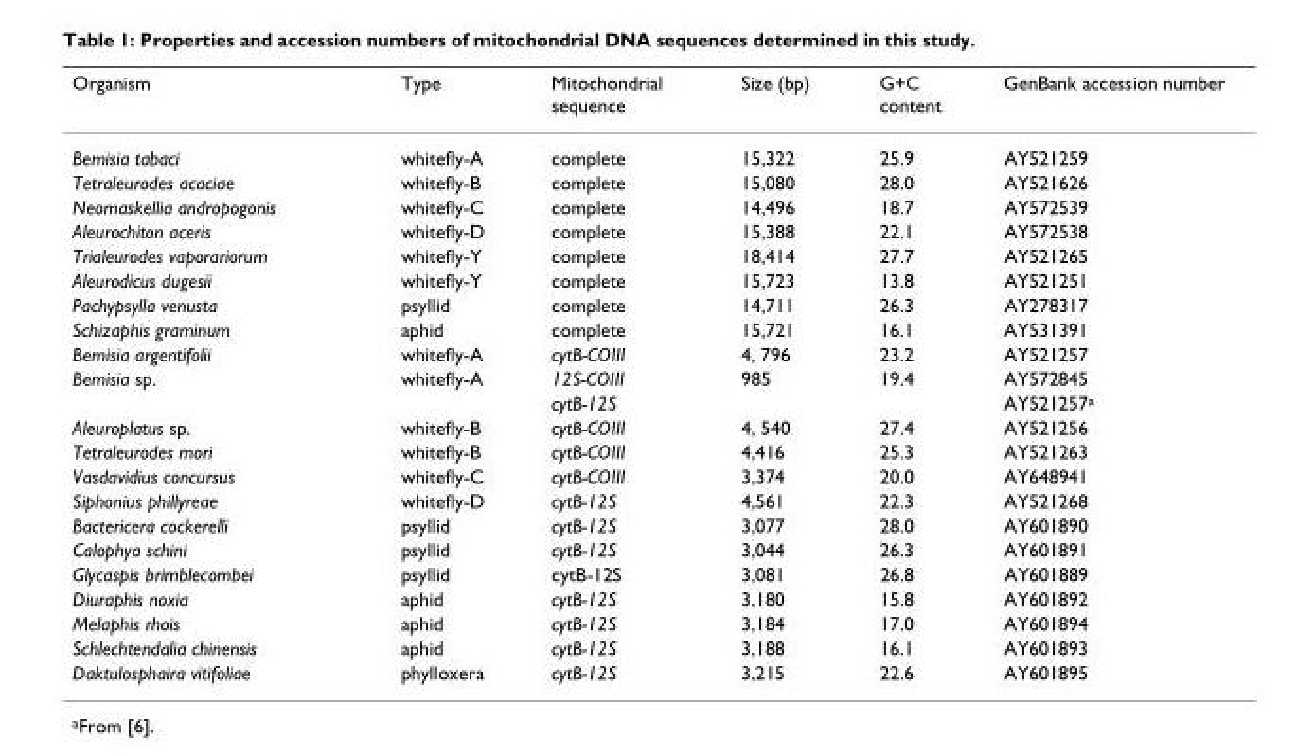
<table><thead><tr><td>Organism</td><td>Type</td><td>Mitochondrial sequence</td><td>Size (bp)</td><td>G+C content</td><td>GenBank accession number</td></tr></thead><tbody><tr><td>Bemisia tabaci</td><td>whitefly-A</td><td>complete</td><td>15,322</td><td>25.9</td><td>AY521259</td></tr><tr><td>Tetraleurodes acaciae</td><td>whitefly-B</td><td>complete</td><td>15,080</td><td>28.0</td><td>AY521626</td></tr><tr><td>Neomaskellia andropogonis</td><td>whitefly-C</td><td>complete</td><td>14,496</td><td>18.7</td><td>AY572539</td></tr><tr><td>Aleurochiton aceris</td><td>whitefly-D</td><td>complete</td><td>15,388</td><td>22.1</td><td>AY572538</td></tr><tr><td>Trialeurodes vaporariorum</td><td>whitefly-Y</td><td>complete</td><td>18,414</td><td>27.7</td><td>AY521265</td></tr><tr><td>Aleurodicus dugesii</td><td>whitefly-Y</td><td>complete</td><td>15,723</td><td>13.8</td><td>AY521251</td></tr><tr><td>Pachypsylla venusta</td><td>psyllid</td><td>complete</td><td>14,711</td><td>26.3</td><td>AY278317</td></tr><tr><td>Schizaphis graminum</td><td>aphid</td><td>complete</td><td>15,721</td><td>16.1</td><td>AY531391</td></tr><tr><td>Bemisia argentifolii</td><td>whitefly-A</td><td>cytB-COIII</td><td>4, 796</td><td>23.2</td><td>AY521257</td></tr><tr><td rowspan="2">Bemisia sp.</td><td>whitefly-A</td><td>12S-COIII</td><td>985</td><td>19.4</td><td>AY572845</td></tr><tr><td></td><td>cytB-12S</td><td></td><td></td><td>AY521257<sup>a</sup></td></tr><tr><td>Aleuroplatus sp.</td><td>whitefly-B</td><td>cytB-COIII</td><td>4, 540</td><td>27.4</td><td>AY521256</td></tr><tr><td>Tetraleurodes mori</td><td>whitefly-B</td><td>cytB-COIII</td><td>4,416</td><td>25.3</td><td>AY521263</td></tr><tr><td>Vasdavidius concursus</td><td>whitefly-C</td><td>cytB-COIII</td><td>3,374</td><td>20.0</td><td>AY648941</td></tr><tr><td>Siphonius phillyreae</td><td>whitefly-D</td><td>cytB-12S</td><td>4,561</td><td>22.3</td><td>AY521268</td></tr><tr><td>Bactericera cockerelli</td><td>psyllid</td><td>cytB-12S</td><td>3,077</td><td>28.0</td><td>AY601890</td></tr><tr><td>Calophya schini</td><td>psyllid</td><td>cytB-12S</td><td>3,044</td><td>26.3</td><td>AY601891</td></tr><tr><td>Glycaspis brimblecombei</td><td>psyllid</td><td>cytB-12S</td><td>3,081</td><td>26.8</td><td>AY601889</td></tr><tr><td>Diuraphis noxia</td><td>aphid</td><td>cytB-12S</td><td>3,180</td><td>15.8</td><td>AY601892</td></tr><tr><td>Melaphis rhois</td><td>aphid</td><td>cytB-12S</td><td>3,184</td><td>17.0</td><td>AY601894</td></tr><tr><td>Schlechtendalia chinensis</td><td>aphid</td><td>cytB-12S</td><td>3,188</td><td>16.1</td><td>AY601893</td></tr><tr><td>Daktulosphaira vitifoliae</td><td>phylloxera</td><td>cytB-12S</td><td>3,215</td><td>22.6</td><td>AY601895</td></tr></tbody></table>